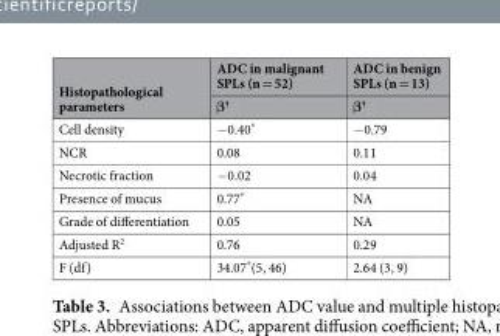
<table><thead><tr><td rowspan="2">Histopathological parameters</td><td rowspan="2">ADC in malignant SPLs (n = 52) β<sup>†</sup></td><td rowspan="2">ADC in benign SPLs (n = 13) β<sup>†</sup></td></tr><tr></tr></thead><tbody><tr><td>Cell density</td><td>−0.40*</td><td>−0.79</td></tr><tr><td>NCR</td><td>0.08</td><td>0.11</td></tr><tr><td>Necrotic fraction</td><td>−0.02</td><td>0.04</td></tr><tr><td>Presence of mucus</td><td>0.77*</td><td>NA</td></tr><tr><td>Grade of differentiation</td><td>0.05</td><td>NA</td></tr><tr><td>Adjusted R<sup>2</sup></td><td>0.76</td><td>0.29</td></tr><tr><td>F (df)</td><td>34.07*(5, 46)</td><td>2.64 (3, 9)</td></tr></tbody></table>